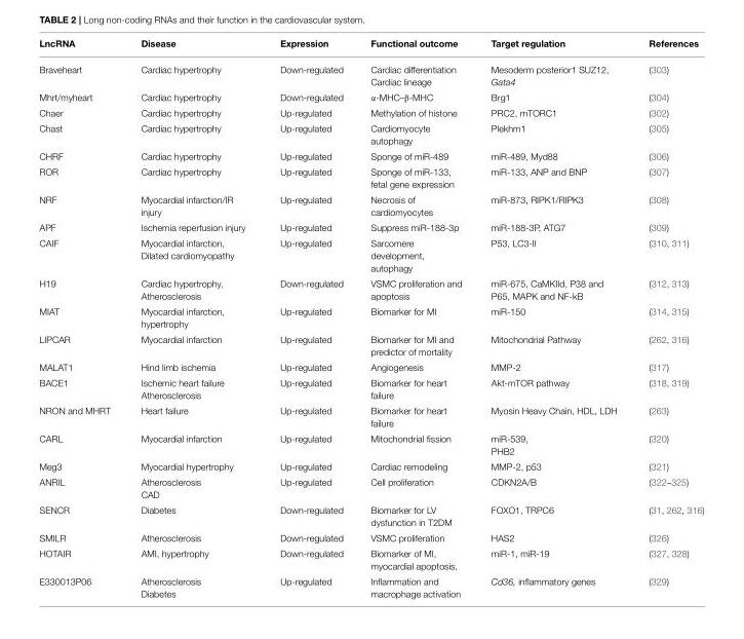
<table><thead><tr><td>LncRNA</td><td>Disease</td><td>Expression</td><td>Functional outcome</td><td>Target regulation</td><td>References</td></tr></thead><tbody><tr><td>Braveheart</td><td>Cardiac hypertrophy</td><td>Down-regulated</td><td>Cardiac differentiation Cardiac lineage</td><td>Mesoderm posterior1 SUZ12, Gata4</td><td>(303)</td></tr><tr><td>Mhrt/myheart</td><td>Cardiac hypertrophy</td><td>Down-regulated</td><td>α-MHC–β-MHC</td><td>Brg1</td><td>(304)</td></tr><tr><td>Chaer</td><td>Cardiac hypertrophy</td><td>Up-regulated</td><td>Methylation of histone</td><td>PRC2, mTORC1</td><td>(302)</td></tr><tr><td>Chast</td><td>Cardiac hypertrophy</td><td>Up-regulated</td><td>Cardiomyocyte autophagy</td><td>Plekhm1</td><td>(305)</td></tr><tr><td>CHRF</td><td>Cardiac hypertrophy</td><td>Up-regulated</td><td>Sponge of miR-489</td><td>miR-489, Myd88</td><td>(306)</td></tr><tr><td>ROR</td><td>Cardiac hypertrophy</td><td>Up-regulated</td><td>Sponge of miR-133, fetal gene expression</td><td>miR-133, ANP and BNP</td><td>(307)</td></tr><tr><td>NRF</td><td>Myocardial infarction/IR injury</td><td>Up-regulated</td><td>Necrosis of cardiomyocytes</td><td>miR-873, RIPK1/RIPK3</td><td>(308)</td></tr><tr><td>APF</td><td>Ischemia reperfusion injury</td><td>Up-regulated</td><td>Suppress miR-188-3p</td><td>miR-188-3P, ATG7</td><td>(309)</td></tr><tr><td>CAIF</td><td>Myocardial infarction, Dilated cardiomyopathy</td><td>Up-regulated</td><td>Sarcomere development, autophagy</td><td>P53, LC3-II</td><td>(310, 311)</td></tr><tr><td>H19</td><td>Cardiac hypertrophy, Atherosclerosis</td><td>Down-regulated</td><td>VSMC proliferation and apoptosis</td><td>miR-675, CaMKIId, P38 and P65, MAPK and NF-kB</td><td>(312, 313)</td></tr><tr><td>MIAT</td><td>Myocardial infarction, hypertrophy</td><td>Up-regulated</td><td>Biomarker for MI</td><td>miR-150</td><td>(314, 315)</td></tr><tr><td>LIPCAR</td><td>Myocardial infarction</td><td>Up-regulated</td><td>Biomarker for MI and predictor of mortality</td><td>Mitochondrial Pathway</td><td>(262, 316)</td></tr><tr><td>MALAT1</td><td>Hind limb ischemia</td><td>Up-regulated</td><td>Angiogenesis</td><td>MMP-2</td><td>(317)</td></tr><tr><td>BACE1</td><td>Ischemic heart failure Atherosclerosis</td><td>Up-regulated</td><td>Biomarker for heart failure</td><td>Akt-mTOR pathway</td><td>(318, 319)</td></tr><tr><td>NRON and MHRT</td><td>Heart failure</td><td>Up-regulated</td><td>Biomarker for heart failure</td><td>Myosin Heavy Chain, HDL, LDH</td><td>(263)</td></tr><tr><td>CARL</td><td>Myocardial infarction</td><td>Up-regulated</td><td>Mitochondrial fission</td><td>miR-539, PHB2</td><td>(320)</td></tr><tr><td>Meg3</td><td>Myocardial hypertrophy</td><td>Up-regulated</td><td>Cardiac remodeling</td><td>MMP-2, p53</td><td>(321)</td></tr><tr><td>ANRIL</td><td>Atherosclerosis CAD</td><td>Up-regulated</td><td>Cell proliferation</td><td>CDKN2A/B</td><td>(322–325)</td></tr><tr><td>SENCR</td><td>Diabetes</td><td>Down-regulated</td><td>Biomarker for LV dysfunction in T2DM</td><td>FOXO1, TRPC6</td><td>(31, 262, 316)</td></tr><tr><td>SMILR</td><td>Atherosclerosis</td><td>Down-regulated</td><td>VSMC proliferation</td><td>HAS2</td><td>(326)</td></tr><tr><td>HOTAIR</td><td>AMI, hypertrophy</td><td>Down-regulated</td><td>Biomarker of MI, myocardial apoptosis,</td><td>miR-1, miR-19</td><td>(327, 328)</td></tr><tr><td>E330013P06</td><td>Atherosclerosis Diabetes</td><td>Up-regulated</td><td>Inflammation and macrophage activation</td><td>Cd36, inflammatory genes</td><td>(329)</td></tr></tbody></table>